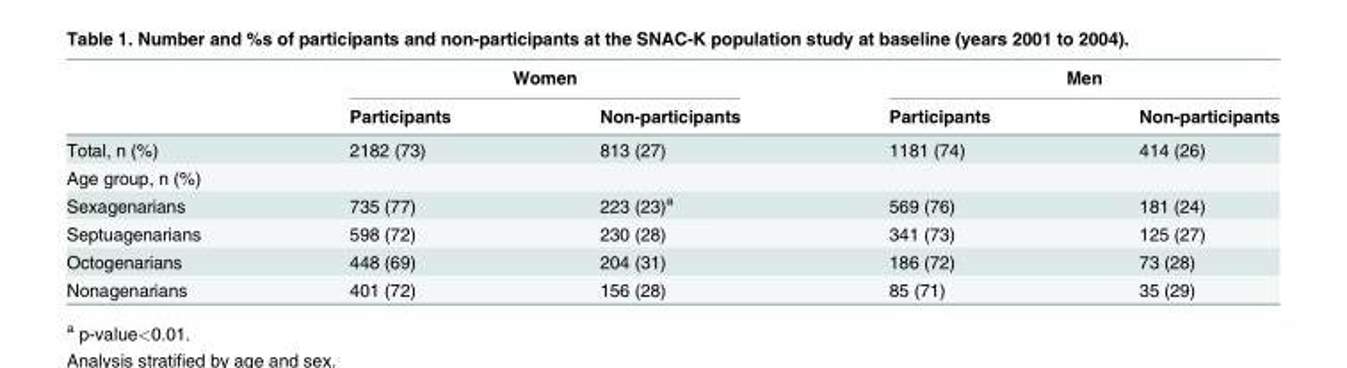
<table><thead><tr><td rowspan="2"></td><td colspan="2">Women</td><td colspan="2">Men</td></tr><tr><td>Participants</td><td>Non-participants</td><td>Participants</td><td>Non-participants</td></tr></thead><tbody><tr><td>Total, n (%)</td><td>2182 (73)</td><td>813 (27)</td><td>1181 (74)</td><td>414 (26)</td></tr><tr><td colspan="5">Age group, n (%)</td></tr><tr><td>Sexagenarians</td><td>735 (77)</td><td>223 (23)<sup>a</sup></td><td>569 (76)</td><td>181 (24)</td></tr><tr><td>Septuagenarians</td><td>598 (72)</td><td>230 (28)</td><td>341 (73)</td><td>125 (27)</td></tr><tr><td>Octogenarians</td><td>448 (69)</td><td>204 (31)</td><td>186 (72)</td><td>73 (28)</td></tr><tr><td>Nonagenarians</td><td>401 (72)</td><td>156 (28)</td><td>85 (71)</td><td>35 (29)</td></tr></tbody></table>